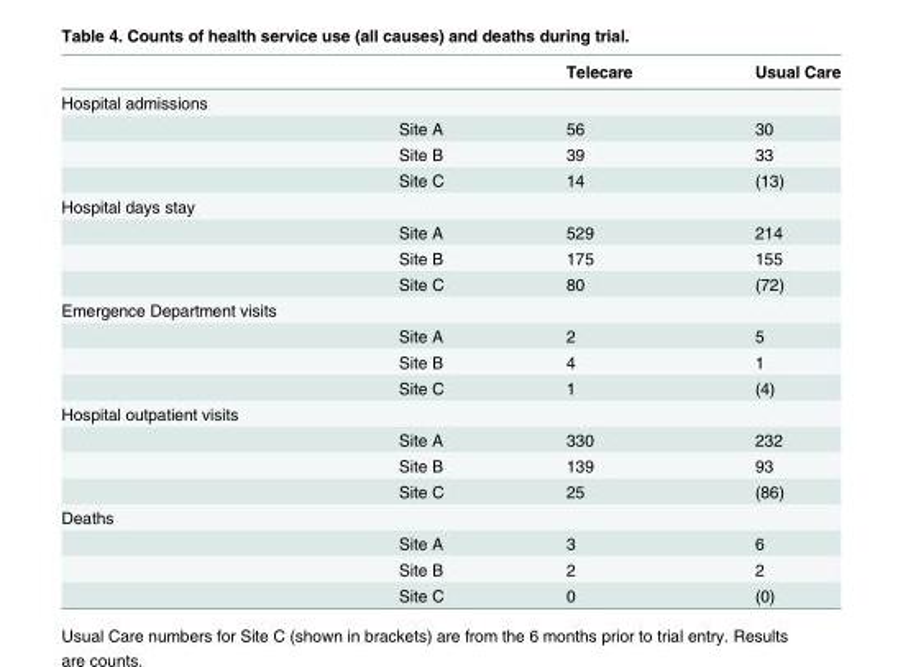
<table><thead><tr><td></td><td></td><td>Telecare</td><td>Usual Care</td></tr></thead><tbody><tr><td colspan="4">Hospital admissions</td></tr><tr><td></td><td>Site A</td><td>56</td><td>30</td></tr><tr><td></td><td>Site B</td><td>39</td><td>33</td></tr><tr><td></td><td>Site C</td><td>14</td><td>(13)</td></tr><tr><td colspan="4">Hospital days stay</td></tr><tr><td></td><td>Site A</td><td>529</td><td>214</td></tr><tr><td></td><td>Site B</td><td>175</td><td>155</td></tr><tr><td></td><td>Site C</td><td>80</td><td>(72)</td></tr><tr><td colspan="4">Emergence Department visits</td></tr><tr><td></td><td>Site A</td><td>2</td><td>5</td></tr><tr><td></td><td>Site B</td><td>4</td><td>1</td></tr><tr><td></td><td>Site C</td><td>1</td><td>(4)</td></tr><tr><td colspan="4">Hospital outpatient visits</td></tr><tr><td></td><td>Site A</td><td>330</td><td>232</td></tr><tr><td></td><td>Site B</td><td>139</td><td>93</td></tr><tr><td></td><td>Site C</td><td>25</td><td>(86)</td></tr><tr><td colspan="4">Deaths</td></tr><tr><td></td><td>Site A</td><td>3</td><td>6</td></tr><tr><td></td><td>Site B</td><td>2</td><td>2</td></tr><tr><td></td><td>Site C</td><td>0</td><td>(0)</td></tr></tbody></table>